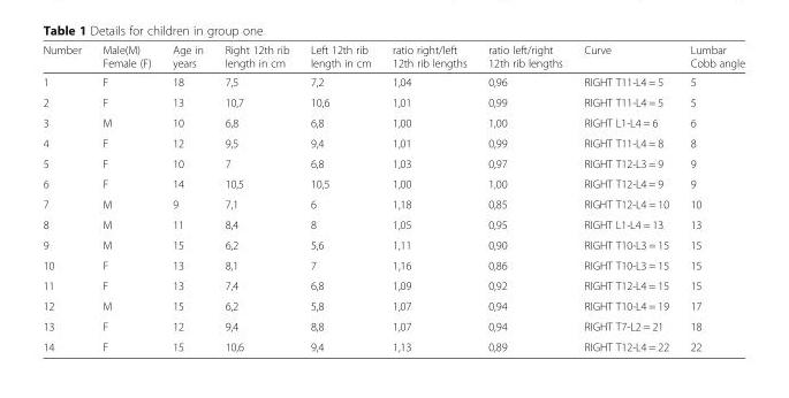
<table><thead><tr><td>Number</td><td>Male(M) Female (F)</td><td>Age in years</td><td>Right 12th rib length in cm</td><td>Left 12th rib length in cm</td><td>ratio right/left 12th rib lengths</td><td>ratio left/right 12th rib lengths</td><td>Curve</td><td>Lumbar Cobb angle</td></tr></thead><tbody><tr><td>1</td><td>F</td><td>18</td><td>7,5</td><td>7,2</td><td>1,04</td><td>0,96</td><td>RIGHT T11-L4 = 5</td><td>5</td></tr><tr><td>2</td><td>F</td><td>13</td><td>10,7</td><td>10,6</td><td>1,01</td><td>0,99</td><td>RIGHT T11-L4 = 5</td><td>5</td></tr><tr><td>3</td><td>M</td><td>10</td><td>6,8</td><td>6,8</td><td>1,00</td><td>1,00</td><td>RIGHT L1-L4 = 6</td><td>6</td></tr><tr><td>4</td><td>F</td><td>12</td><td>9,5</td><td>9,4</td><td>1,01</td><td>0,99</td><td>RIGHT T11-L4 = 8</td><td>8</td></tr><tr><td>5</td><td>F</td><td>10</td><td>7</td><td>6,8</td><td>1,03</td><td>0,97</td><td>RIGHT T12-L3 = 9</td><td>9</td></tr><tr><td>6</td><td>F</td><td>14</td><td>10,5</td><td>10,5</td><td>1,00</td><td>1,00</td><td>RIGHT T12-L4 = 9</td><td>9</td></tr><tr><td>7</td><td>M</td><td>9</td><td>7,1</td><td>6</td><td>1,18</td><td>0,85</td><td>RIGHT T12-L4 = 10</td><td>10</td></tr><tr><td>8</td><td>M</td><td>11</td><td>8,4</td><td>8</td><td>1,05</td><td>0,95</td><td>RIGHT L1-L4 = 13</td><td>13</td></tr><tr><td>9</td><td>M</td><td>15</td><td>6,2</td><td>5,6</td><td>1,11</td><td>0,90</td><td>RIGHT T10-L3 = 15</td><td>15</td></tr><tr><td>10</td><td>F</td><td>13</td><td>8,1</td><td>7</td><td>1,16</td><td>0,86</td><td>RIGHT T10-L3 = 15</td><td>15</td></tr><tr><td>11</td><td>F</td><td>13</td><td>7,4</td><td>6,8</td><td>1,09</td><td>0,92</td><td>RIGHT T12-L4 = 15</td><td>15</td></tr><tr><td>12</td><td>M</td><td>15</td><td>6,2</td><td>5,8</td><td>1,07</td><td>0,94</td><td>RIGHT T10-L4 = 19</td><td>17</td></tr><tr><td>13</td><td>F</td><td>12</td><td>9,4</td><td>8,8</td><td>1,07</td><td>0,94</td><td>RIGHT T7-L2 = 21</td><td>18</td></tr><tr><td>14</td><td>F</td><td>15</td><td>10,6</td><td>9,4</td><td>1,13</td><td>0,89</td><td>RIGHT T12-L4 = 22</td><td>22</td></tr></tbody></table>